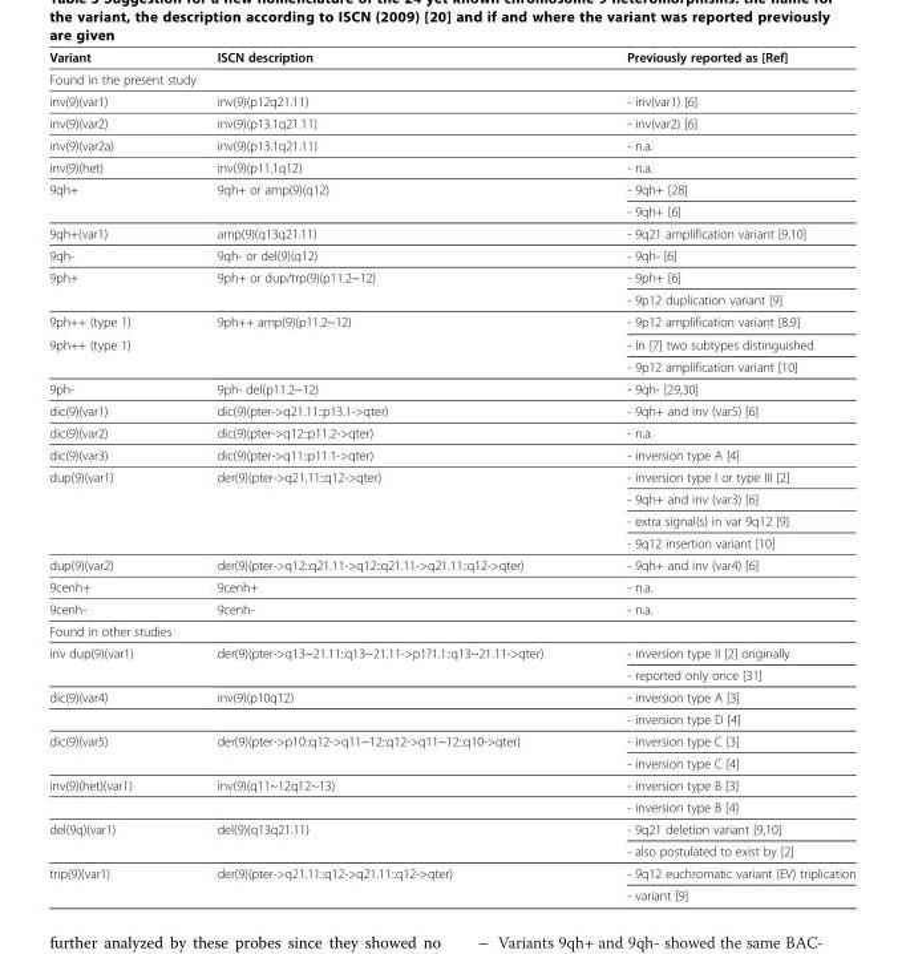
<table><thead><tr><td>Variant</td><td>ISCN description</td><td>Previously reported as [Ref]</td></tr></thead><tbody><tr><td colspan="3">Found in the present study</td></tr><tr><td>inv(9)(var1)</td><td>inv(9)(p12q21.11)</td><td>- inv(var1) [6]</td></tr><tr><td>inv(9)(var2)</td><td>inv(9)(p13.1q21.11)</td><td>- inv(var2) [6]</td></tr><tr><td>inv(9)(var2a)</td><td>inv(9)(p13.1q21.11)</td><td>- n.a.</td></tr><tr><td>inv(9)(het)</td><td>inv(9)(p11.1q12)</td><td>- n.a.</td></tr><tr><td rowspan="2">9qh+</td><td rowspan="2">9qh+ or amp(9)(q12)</td><td>- 9qh+ [28]</td></tr><tr><td>- 9qh+ [6]</td></tr><tr><td>9qh+(var1)</td><td>amp(9)(q13q21.11)</td><td>- 9q21 amplification variant [9,10]</td></tr><tr><td>9qh-</td><td>9qh- or del(9)(q12)</td><td>- 9qh- [6]</td></tr><tr><td rowspan="2">9ph+</td><td rowspan="2">9ph+ or dup/trp(9)(p11.2~12)</td><td>- 9ph+ [6]</td></tr><tr><td>- 9p12 duplication variant [9]</td></tr><tr><td>9ph++ (type 1)</td><td>9ph++ amp(9)(p11.2~12)</td><td>- 9p12 amplification variant [8,9]</td></tr><tr><td rowspan="2">9ph++ (type 1)</td><td></td><td>- In [7] two subtypes distinguished</td></tr><tr><td></td><td>- 9p12 amplification variant [10]</td></tr><tr><td>9ph-</td><td>9ph- del(p11.2~12)</td><td>- 9qh- [29,30]</td></tr><tr><td>dic(9)(var1)</td><td>dic(9)(pter-&gt;q21.11::p13.1-&gt;qter)</td><td>- 9qh+ and inv (var5) [6]</td></tr><tr><td>dic(9)(var2)</td><td>dic(9)(pter-&gt;q12::p11.2-&gt;qter)</td><td>- n.a.</td></tr><tr><td>dic(9)(var3)</td><td>dic(9)(pter-&gt;q11::p11.1-&gt;qter)</td><td>- inversion type A [4]</td></tr><tr><td rowspan="4">dup(9)(var1)</td><td rowspan="4">der(9)(pter-&gt;q21.11::q12-&gt;qter)</td><td>- inversion type I or type III [2]</td></tr><tr><td>- 9qh+ and inv (var3) [6]</td></tr><tr><td>- extra signal(s) in var 9q12 [9]</td></tr><tr><td>- 9q12 insertion variant [10]</td></tr><tr><td>dup(9)(var2)</td><td>der(9)(pter-&gt;q12::q21.11-&gt;q12::q21.11-&gt;q21.11::q12-&gt;qter)</td><td>- 9qh+ and inv (var4) [6]</td></tr><tr><td>9cenh+</td><td>9cenh+</td><td>- n.a.</td></tr><tr><td>9cenh-</td><td>9cenh-</td><td>- n.a.</td></tr><tr><td colspan="3">Found in other studies</td></tr><tr><td rowspan="2">inv dup(9)(var1)</td><td rowspan="2">der(9)(pter-&gt;q13~21.11::q13~21.11-&gt;p1?1.1::q13~21.11-&gt;qter)</td><td>- inversion type II [2] originally</td></tr><tr><td>- reported only once [31]</td></tr><tr><td rowspan="2">dic(9)(var4)</td><td>inv(9)(p10q12)</td><td>- inversion type A [3]</td></tr><tr><td></td><td>- inversion type D [4]</td></tr><tr><td rowspan="2">dic(9)(var5)</td><td rowspan="2">der(9)(pter-&gt;p10::q12-&gt;q11~12::q12-&gt;q11~12::q10-&gt;qter)</td><td>- inversion type C [3]</td></tr><tr><td>- inversion type C [4]</td></tr><tr><td rowspan="2">inv(9)(het)(var1)</td><td>inv(9)(q11~12q12~13)</td><td>- inversion type B [3]</td></tr><tr><td></td><td>- inversion type B [4]</td></tr><tr><td rowspan="2">del(9q)(var1)</td><td rowspan="2">del(9)(q13q21.11)</td><td>- 9q21 deletion variant [9,10]</td></tr><tr><td>- also postulated to exist by [2]</td></tr><tr><td rowspan="2">trip(9)(var1)</td><td>der(9)(pter-&gt;q21.11::q12-&gt;q21.11::q12-&gt;qter)</td><td>- 9q12 euchromatic variant (EV) triplication</td></tr><tr><td></td><td>- variant [9]</td></tr></tbody></table>